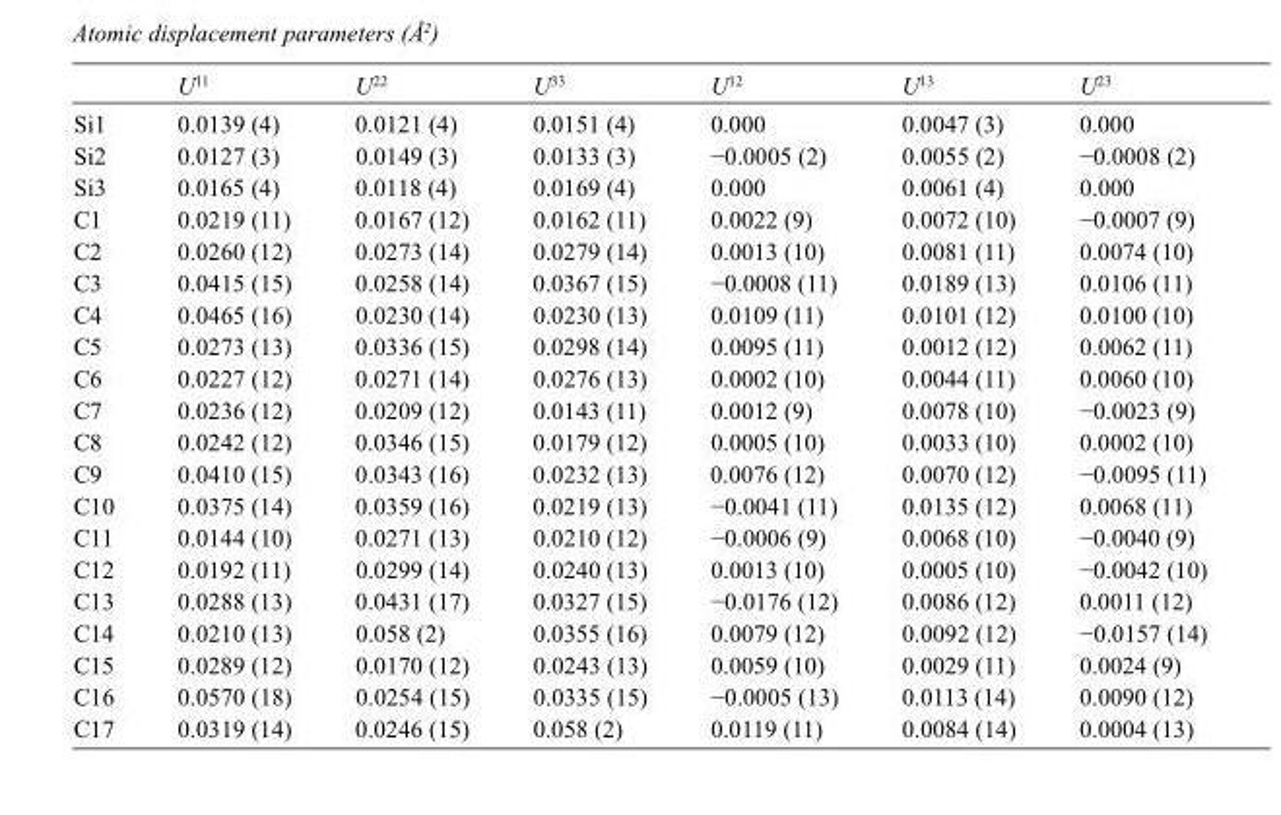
<table><thead><tr><td></td><td>U<sup>11</sup></td><td>U<sup>22</sup></td><td>U<sup>33</sup></td><td>U<sup>12</sup></td><td>U<sup>13</sup></td><td>U<sup>23</sup></td></tr></thead><tbody><tr><td>Si1</td><td>0.0139 (4)</td><td>0.0121 (4)</td><td>0.0151 (4)</td><td>0.000</td><td>0.0047 (3)</td><td>0.000</td></tr><tr><td>Si2</td><td>0.0127 (3)</td><td>0.0149 (3)</td><td>0.0133 (3)</td><td>−0.0005 (2)</td><td>0.0055 (2)</td><td>−0.0008 (2)</td></tr><tr><td>Si3</td><td>0.0165 (4)</td><td>0.0118 (4)</td><td>0.0169 (4)</td><td>0.000</td><td>0.0061 (4)</td><td>0.000</td></tr><tr><td>C1</td><td>0.0219 (11)</td><td>0.0167 (12)</td><td>0.0162 (11)</td><td>0.0022 (9)</td><td>0.0072 (10)</td><td>−0.0007 (9)</td></tr><tr><td>C2</td><td>0.0260 (12)</td><td>0.0273 (14)</td><td>0.0279 (14)</td><td>0.0013 (10)</td><td>0.0081 (11)</td><td>0.0074 (10)</td></tr><tr><td>C3</td><td>0.0415 (15)</td><td>0.0258 (14)</td><td>0.0367 (15)</td><td>−0.0008 (11)</td><td>0.0189 (13)</td><td>0.0106 (11)</td></tr><tr><td>C4</td><td>0.0465 (16)</td><td>0.0230 (14)</td><td>0.0230 (13)</td><td>0.0109 (11)</td><td>0.0101 (12)</td><td>0.0100 (10)</td></tr><tr><td>C5</td><td>0.0273 (13)</td><td>0.0336 (15)</td><td>0.0298 (14)</td><td>0.0095 (11)</td><td>0.0012 (12)</td><td>0.0062 (11)</td></tr><tr><td>C6</td><td>0.0227 (12)</td><td>0.0271 (14)</td><td>0.0276 (13)</td><td>0.0002 (10)</td><td>0.0044 (11)</td><td>0.0060 (10)</td></tr><tr><td>C7</td><td>0.0236 (12)</td><td>0.0209 (12)</td><td>0.0143 (11)</td><td>0.0012 (9)</td><td>0.0078 (10)</td><td>−0.0023 (9)</td></tr><tr><td>C8</td><td>0.0242 (12)</td><td>0.0346 (15)</td><td>0.0179 (12)</td><td>0.0005 (10)</td><td>0.0033 (10)</td><td>0.0002 (10)</td></tr><tr><td>C9</td><td>0.0410 (15)</td><td>0.0343 (16)</td><td>0.0232 (13)</td><td>0.0076 (12)</td><td>0.0070 (12)</td><td>−0.0095 (11)</td></tr><tr><td>C10</td><td>0.0375 (14)</td><td>0.0359 (16)</td><td>0.0219 (13)</td><td>−0.0041 (11)</td><td>0.0135 (12)</td><td>0.0068 (11)</td></tr><tr><td>C11</td><td>0.0144 (10)</td><td>0.0271 (13)</td><td>0.0210 (12)</td><td>−0.0006 (9)</td><td>0.0068 (10)</td><td>−0.0040 (9)</td></tr><tr><td>C12</td><td>0.0192 (11)</td><td>0.0299 (14)</td><td>0.0240 (13)</td><td>0.0013 (10)</td><td>0.0005 (10)</td><td>−0.0042 (10)</td></tr><tr><td>C13</td><td>0.0288 (13)</td><td>0.0431 (17)</td><td>0.0327 (15)</td><td>−0.0176 (12)</td><td>0.0086 (12)</td><td>0.0011 (12)</td></tr><tr><td>C14</td><td>0.0210 (13)</td><td>0.058 (2)</td><td>0.0355 (16)</td><td>0.0079 (12)</td><td>0.0092 (12)</td><td>−0.0157 (14)</td></tr><tr><td>C15</td><td>0.0289 (12)</td><td>0.0170 (12)</td><td>0.0243 (13)</td><td>0.0059 (10)</td><td>0.0029 (11)</td><td>0.0024 (9)</td></tr><tr><td>C16</td><td>0.0570 (18)</td><td>0.0254 (15)</td><td>0.0335 (15)</td><td>−0.0005 (13)</td><td>0.0113 (14)</td><td>0.0090 (12)</td></tr><tr><td>C17</td><td>0.0319 (14)</td><td>0.0246 (15)</td><td>0.058 (2)</td><td>0.0119 (11)</td><td>0.0084 (14)</td><td>0.0004 (13)</td></tr></tbody></table>